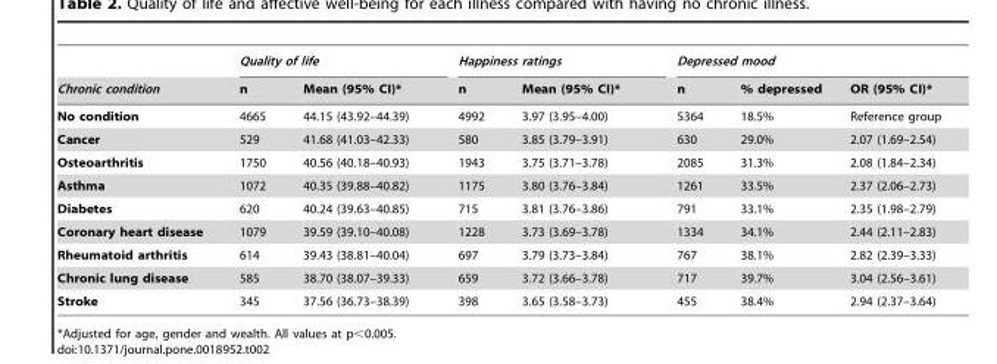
<table><thead><tr><td rowspan="2">Chronic condition</td><td colspan="2">Quality of life</td><td colspan="2">Happiness ratings</td><td colspan="3">Depressed mood</td></tr><tr><td>n</td><td>Mean (95% CI)*</td><td>n</td><td>Mean (95% CI)*</td><td>n</td><td>% depressed</td><td>OR (95% CI)*</td></tr></thead><tbody><tr><td>No condition</td><td>4665</td><td>44.15 (43.92–44.39)</td><td>4992</td><td>3.97 (3.95–4.00)</td><td>5364</td><td>18.5%</td><td>Reference group</td></tr><tr><td>Cancer</td><td>529</td><td>41.68 (41.03–42.33)</td><td>580</td><td>3.85 (3.79–3.91)</td><td>630</td><td>29.0%</td><td>2.07 (1.69–2.54)</td></tr><tr><td>Osteoarthritis</td><td>1750</td><td>40.56 (40.18–40.93)</td><td>1943</td><td>3.75 (3.71–3.78)</td><td>2085</td><td>31.3%</td><td>2.08 (1.84–2.34)</td></tr><tr><td>Asthma</td><td>1072</td><td>40.35 (39.88–40.82)</td><td>1175</td><td>3.80 (3.76–3.84)</td><td>1261</td><td>33.5%</td><td>2.37 (2.06–2.73)</td></tr><tr><td>Diabetes</td><td>620</td><td>40.24 (39.63–40.85)</td><td>715</td><td>3.81 (3.76–3.86)</td><td>791</td><td>33.1%</td><td>2.35 (1.98–2.79)</td></tr><tr><td>Coronary heart disease</td><td>1079</td><td>39.59 (39.10–40.08)</td><td>1228</td><td>3.73 (3.69–3.78)</td><td>1334</td><td>34.1%</td><td>2.44 (2.11–2.83)</td></tr><tr><td>Rheumatoid arthritis</td><td>614</td><td>39.43 (38.81–40.04)</td><td>697</td><td>3.79 (3.73–3.84)</td><td>767</td><td>38.1%</td><td>2.82 (2.39–3.33)</td></tr><tr><td>Chronic lung disease</td><td>585</td><td>38.70 (38.07–39.33)</td><td>659</td><td>3.72 (3.66–3.78)</td><td>717</td><td>39.7%</td><td>3.04 (2.56–3.61)</td></tr><tr><td>Stroke</td><td>345</td><td>37.56 (36.73–38.39)</td><td>398</td><td>3.65 (3.58–3.73)</td><td>455</td><td>38.4%</td><td>2.94 (2.37–3.64)</td></tr></tbody></table>